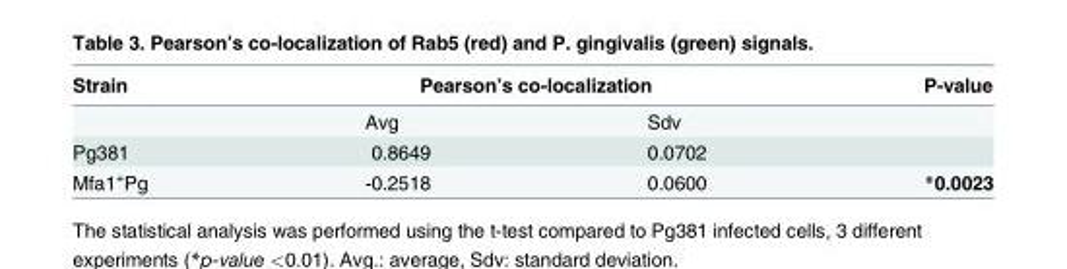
<table><thead><tr><td rowspan="2">Strain</td><td colspan="2">Pearson’s co-localization</td><td rowspan="2">P-value</td></tr><tr><td>Avg</td><td>Sdv</td></tr></thead><tbody><tr><td>Pg381</td><td>0.8649</td><td>0.0702</td><td></td></tr><tr><td>Mfa1<sup>+</sup>Pg</td><td>-0.2518</td><td>0.0600</td><td>*0.0023</td></tr></tbody></table>